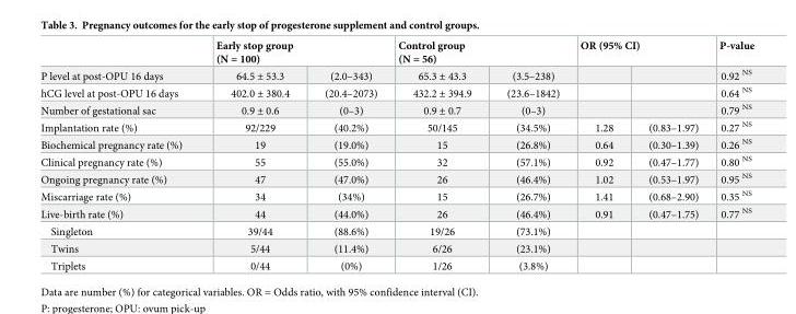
<table><thead><tr><td rowspan="2">P level at post-OPU 16 days</td><td colspan="2">Early stop group (N = 100)</td><td colspan="2">Control group (N = 56)</td><td colspan="2">OR (95% CI)</td><td rowspan="2">P-value 0.92 <sup>NS</sup></td></tr><tr><td>64.5 ± 53.3</td><td>(2.0–343)</td><td>65.3 ± 43.3</td><td>(3.5–238)</td><td></td><td></td></tr></thead><tbody><tr><td>hCG level at post-OPU 16 days</td><td>402.0 ± 380.4</td><td>(20.4–2073)</td><td>432.2 ± 394.9</td><td>(23.6–1842)</td><td></td><td></td><td>0.64 <sup>NS</sup></td></tr><tr><td>Number of gestational sac</td><td>0.9 ± 0.6</td><td>(0–3)</td><td>0.9 ± 0.7</td><td>(0–3)</td><td></td><td></td><td>0.79 <sup>NS</sup></td></tr><tr><td>Implantation rate (%)</td><td>92/229</td><td>(40.2%)</td><td>50/145</td><td>(34.5%)</td><td>1.28</td><td>(0.83–1.97)</td><td>0.27 <sup>NS</sup></td></tr><tr><td>Biochemical pregnancy rate (%)</td><td>19</td><td>(19.0%)</td><td>15</td><td>(26.8%)</td><td>0.64</td><td>(0.30–1.39)</td><td>0.26 <sup>NS</sup></td></tr><tr><td>Clinical pregnancy rate (%)</td><td>55</td><td>(55.0%)</td><td>32</td><td>(57.1%)</td><td>0.92</td><td>(0.47–1.77)</td><td>0.80 <sup>NS</sup></td></tr><tr><td>Ongoing pregnancy rate (%)</td><td>47</td><td>(47.0%)</td><td>26</td><td>(46.4%)</td><td>1.02</td><td>(0.53–1.97)</td><td>0.95 <sup>NS</sup></td></tr><tr><td>Miscarriage rate (%)</td><td>34</td><td>(34%)</td><td>15</td><td>(26.7%)</td><td>1.41</td><td>(0.68–2.90)</td><td>0.35 <sup>NS</sup></td></tr><tr><td>Live-birth rate (%)</td><td>44</td><td>(44.0%)</td><td>26</td><td>(46.4%)</td><td>0.91</td><td>(0.47–1.75)</td><td>0.77 <sup>NS</sup></td></tr><tr><td>Singleton</td><td>39/44</td><td>(88.6%)</td><td>19/26</td><td>(73.1%)</td><td></td><td></td><td></td></tr><tr><td>Twins</td><td>5/44</td><td>(11.4%)</td><td>6/26</td><td>(23.1%)</td><td></td><td></td><td></td></tr><tr><td>Triplets</td><td>0/44</td><td>(0%)</td><td>1/26</td><td>(3.8%)</td><td></td><td></td><td></td></tr></tbody></table>